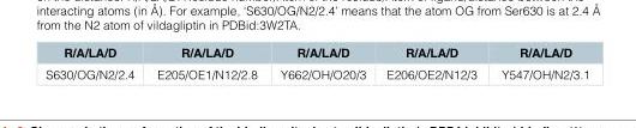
<table><thead><tr><td>R/A/LA/D</td><td>R/A/LA/D</td><td>R/A/LA/D</td><td>R/A/LA/D</td><td>R/A/LA/D</td></tr></thead><tbody><tr><td>S630/OG/N2/2.4</td><td>E205/OE1/N12/2.8</td><td>Y662/OH/O20/3</td><td>E206/OE2/N12/3</td><td>Y547/OH/N2/3.1</td></tr></tbody></table>